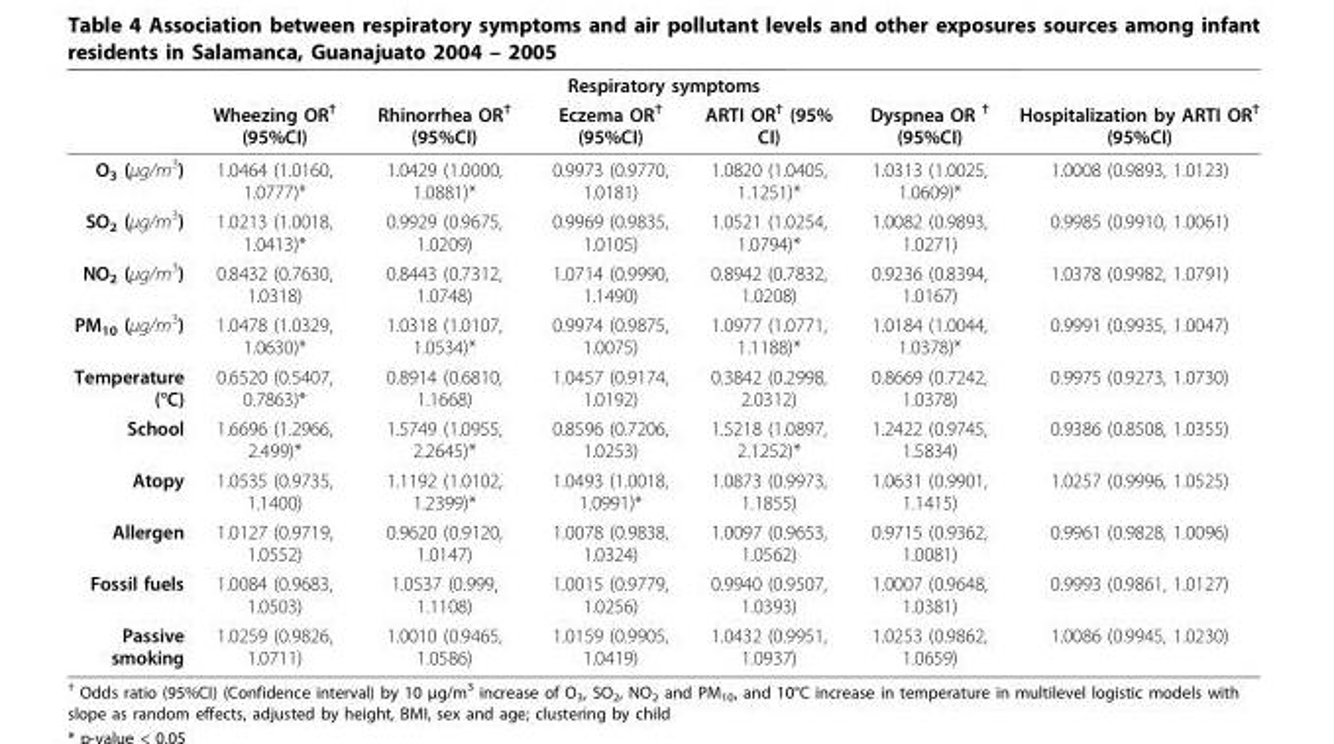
<table><thead><tr><td colspan="7">Respiratory symptoms</td></tr><tr><td></td><td>Wheezing OR<sup>†</sup> (95%CI)</td><td>Rhinorrhea OR<sup>†</sup> (95%CI)</td><td>Eczema OR<sup>†</sup> (95%CI)</td><td>ARTI OR<sup>†</sup> (95% CI)</td><td>Dyspnea OR <sup>†</sup> (95%CI)</td><td>Hospitalization by ARTI OR<sup>†</sup> (95%CI)</td></tr></thead><tbody><tr><td>O<sub>3</sub> (μg/m<sup>3</sup>)</td><td>1.0464 (1.0160, 1.0777)*</td><td>1.0429 (1.0000, 1.0881)*</td><td>0.9973 (0.9770, 1.0181)</td><td>1.0820 (1.0405, 1.1251)*</td><td>1.0313 (1.0025, 1.0609)*</td><td>1.0008 (0.9893, 1.0123)</td></tr><tr><td>SO<sub>2</sub> (μg/m<sup>3</sup>)</td><td>1.0213 (1.0018, 1.0413)*</td><td>0.9929 (0.9675, 1.0209)</td><td>0.9969 (0.9835, 1.0105)</td><td>1.0521 (1.0254, 1.0794)*</td><td>1.0082 (0.9893, 1.0271)</td><td>0.9985 (0.9910, 1.0061)</td></tr><tr><td>NO<sub>2</sub> (μg/m<sup>3</sup>)</td><td>0.8432 (0.7630, 1.0318)</td><td>0.8443 (0.7312, 1.0748)</td><td>1.0714 (0.9990, 1.1490)</td><td>0.8942 (0.7832, 1.0208)</td><td>0.9236 (0.8394, 1.0167)</td><td>1.0378 (0.9982, 1.0791)</td></tr><tr><td>PM<sub>10</sub> (μg/m<sup>3</sup>)</td><td>1.0478 (1.0329, 1.0630)*</td><td>1.0318 (1.0107, 1.0534)*</td><td>0.9974 (0.9875, 1.0075)</td><td>1.0977 (1.0771, 1.1188)*</td><td>1.0184 (1.0044, 1.0378)*</td><td>0.9991 (0.9935, 1.0047)</td></tr><tr><td>Temperature (°C)</td><td>0.6520 (0.5407, 0.7863)*</td><td>0.8914 (0.6810, 1.1668)</td><td>1.0457 (0.9174, 1.0192)</td><td>0.3842 (0.2998, 2.0312)</td><td>0.8669 (0.7242, 1.0378)</td><td>0.9975 (0.9273, 1.0730)</td></tr><tr><td>School</td><td>1.6696 (1.2966, 2.499)*</td><td>1.5749 (1.0955, 2.2645)*</td><td>0.8596 (0.7206, 1.0253)</td><td>1.5218 (1.0897, 2.1252)*</td><td>1.2422 (0.9745, 1.5834)</td><td>0.9386 (0.8508, 1.0355)</td></tr><tr><td>Atopy</td><td>1.0535 (0.9735, 1.1400)</td><td>1.1192 (1.0102, 1.2399)*</td><td>1.0493 (1.0018, 1.0991)*</td><td>1.0873 (0.9973, 1.1855)</td><td>1.0631 (0.9901, 1.1415)</td><td>1.0257 (0.9996, 1.0525)</td></tr><tr><td>Allergen</td><td>1.0127 (0.9719, 1.0552)</td><td>0.9620 (0.9120, 1.0147)</td><td>1.0078 (0.9838, 1.0324)</td><td>1.0097 (0.9653, 1.0562)</td><td>0.9715 (0.9362, 1.0081)</td><td>0.9961 (0.9828, 1.0096)</td></tr><tr><td>Fossil fuels</td><td>1.0084 (0.9683, 1.0503)</td><td>1.0537 (0.999, 1.1108)</td><td>1.0015 (0.9779, 1.0256)</td><td>0.9940 (0.9507, 1.0393)</td><td>1.0007 (0.9648, 1.0381)</td><td>0.9993 (0.9861, 1.0127)</td></tr><tr><td>Passive smoking</td><td>1.0259 (0.9826, 1.0711)</td><td>1.0010 (0.9465, 1.0586)</td><td>1.0159 (0.9905, 1.0419)</td><td>1.0432 (0.9951, 1.0937)</td><td>1.0253 (0.9862, 1.0659)</td><td>1.0086 (0.9945, 1.0230)</td></tr></tbody></table>